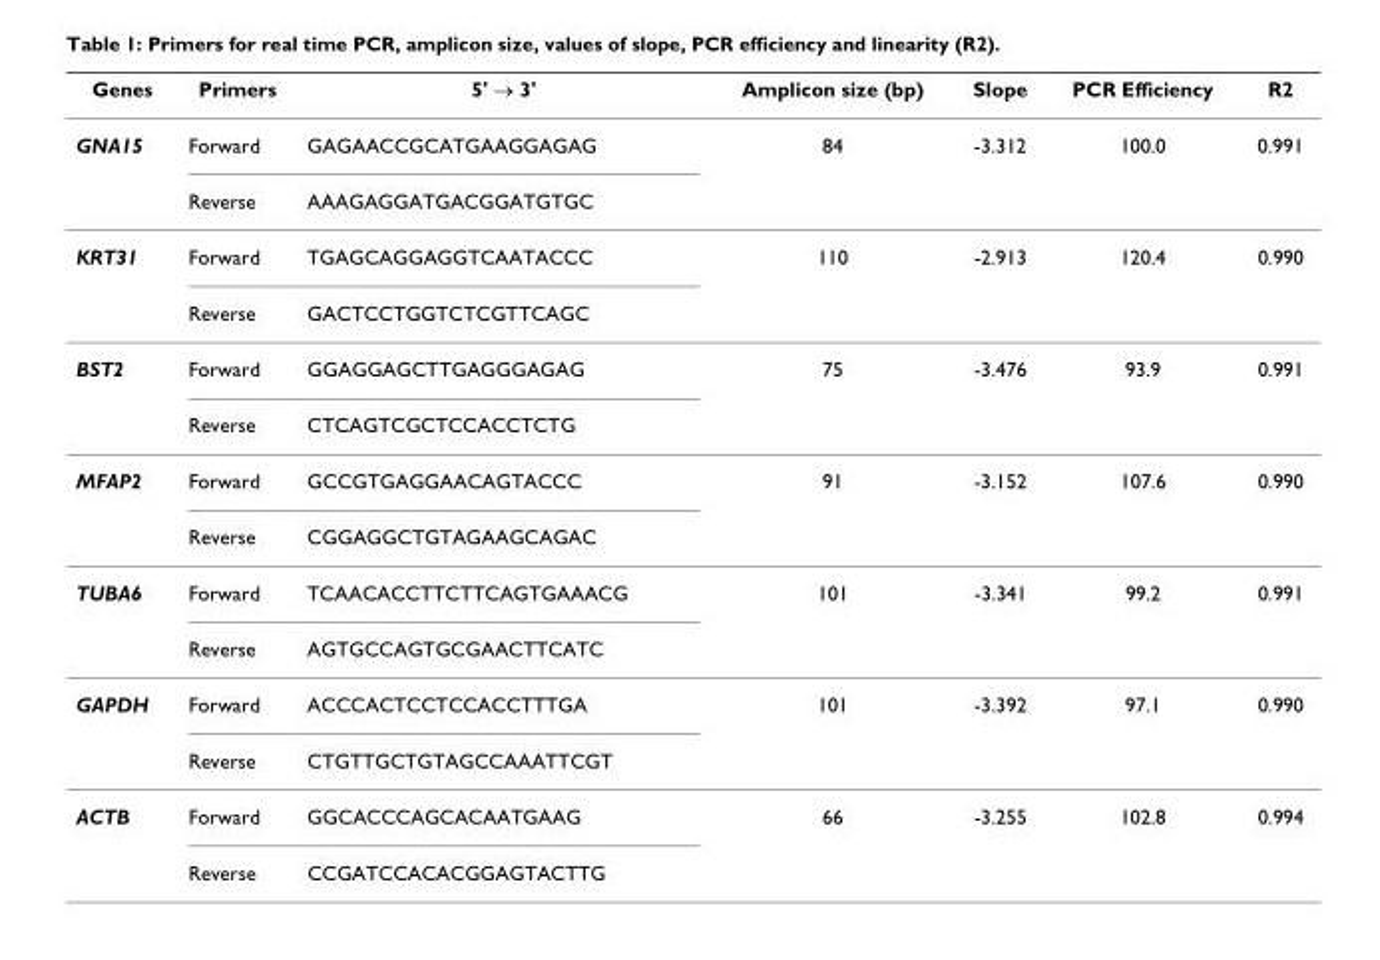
<table><thead><tr><td>Genes</td><td>Primers</td><td>5&#x27; → 3&#x27;</td><td>Amplicon size (bp)</td><td>Slope</td><td>PCR Efficiency</td><td>R2</td></tr></thead><tbody><tr><td rowspan="2">GNA15</td><td>Forward</td><td>GAGAACCGCATGAAGGAGAG</td><td>84</td><td>-3.312</td><td>100.0</td><td>0.991</td></tr><tr><td>Reverse</td><td>AAAGAGGATGACGGATGTGC</td><td></td><td></td><td></td><td></td></tr><tr><td rowspan="2">KRT31</td><td>Forward</td><td>TGAGCAGGAGGTCAATACCC</td><td>110</td><td>-2.913</td><td>120.4</td><td>0.990</td></tr><tr><td>Reverse</td><td>GACTCCTGGTCTCGTTCAGC</td><td></td><td></td><td></td><td></td></tr><tr><td rowspan="2">BST2</td><td>Forward</td><td>GGAGGAGCTTGAGGGAGAG</td><td>75</td><td>-3.476</td><td>93.9</td><td>0.991</td></tr><tr><td>Reverse</td><td>CTCAGTCGCTCCACCTCTG</td><td></td><td></td><td></td><td></td></tr><tr><td rowspan="2">MFAP2</td><td>Forward</td><td>GCCGTGAGGAACAGTACCC</td><td>91</td><td>-3.152</td><td>107.6</td><td>0.990</td></tr><tr><td>Reverse</td><td>CGGAGGCTGTAGAAGCAGAC</td><td></td><td></td><td></td><td></td></tr><tr><td rowspan="2">TUBA6</td><td>Forward</td><td>TCAACACCTTCTTCAGTGAAACG</td><td>101</td><td>-3.341</td><td>99.2</td><td>0.991</td></tr><tr><td>Reverse</td><td>AGTGCCAGTGCGAACTTCATC</td><td></td><td></td><td></td><td></td></tr><tr><td rowspan="2">GAPDH</td><td>Forward</td><td>ACCCACTCCTCCACCTTTGA</td><td>101</td><td>-3.392</td><td>97.1</td><td>0.990</td></tr><tr><td>Reverse</td><td>CTGTTGCTGTAGCCAAATTCGT</td><td></td><td></td><td></td><td></td></tr><tr><td rowspan="2">ACTB</td><td>Forward</td><td>GGCACCCAGCACAATGAAG</td><td>66</td><td>-3.255</td><td>102.8</td><td>0.994</td></tr><tr><td>Reverse</td><td>CCGATCCACACGGAGTACTTG</td><td></td><td></td><td></td><td></td></tr></tbody></table>